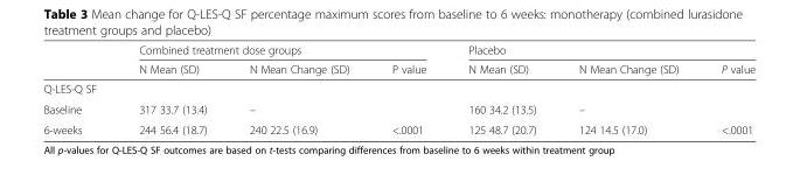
<table><thead><tr><td rowspan="2"></td><td colspan="3">Combined treatment dose groups</td><td colspan="3">Placebo</td></tr><tr><td>N Mean (SD)</td><td>N Mean Change (SD)</td><td>P value</td><td>N Mean (SD)</td><td>N Mean Change (SD)</td><td>P value</td></tr></thead><tbody><tr><td colspan="7">Q-LES-Q SF</td></tr><tr><td>Baseline</td><td>317 33.7 (13.4)</td><td>–</td><td></td><td>160 34.2 (13.5)</td><td>–</td><td></td></tr><tr><td>6-weeks</td><td>244 56.4 (18.7)</td><td>240 22.5 (16.9)</td><td>&lt;.0001</td><td>125 48.7 (20.7)</td><td>124 14.5 (17.0)</td><td>&lt;.0001</td></tr></tbody></table>